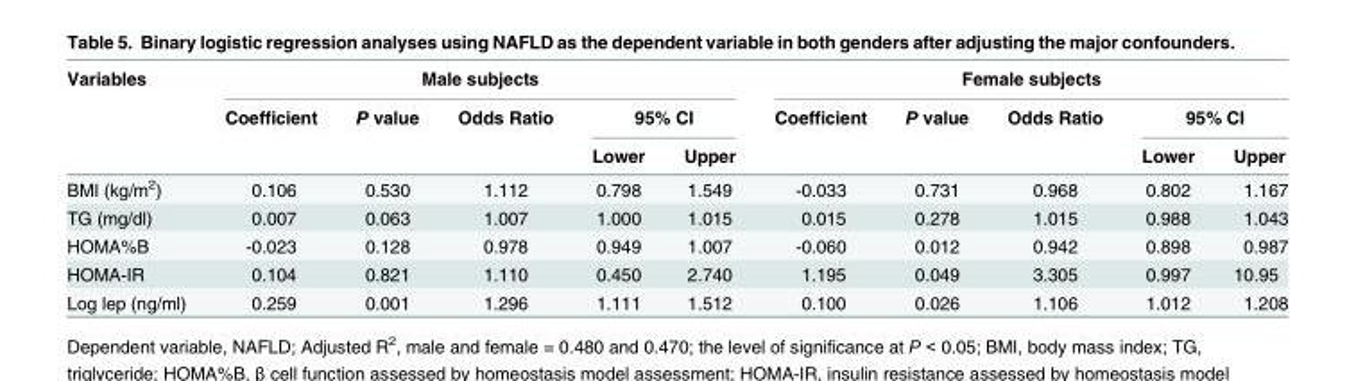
<table><thead><tr><td rowspan="3">Variables</td><td colspan="5">Male subjects</td><td colspan="5">Female subjects</td></tr><tr><td rowspan="2">Coefficient</td><td rowspan="2">P value</td><td rowspan="2">Odds Ratio</td><td colspan="2">95% CI</td><td rowspan="2">Coefficient</td><td rowspan="2">P value</td><td rowspan="2">Odds Ratio</td><td colspan="2">95% CI</td></tr><tr><td>Lower</td><td>Upper</td><td>Lower</td><td>Upper</td></tr></thead><tbody><tr><td>BMI (kg/m<sup>2</sup>)</td><td>0.106</td><td>0.530</td><td>1.112</td><td>0.798</td><td>1.549</td><td>-0.033</td><td>0.731</td><td>0.968</td><td>0.802</td><td>1.167</td></tr><tr><td>TG (mg/dl)</td><td>0.007</td><td>0.063</td><td>1.007</td><td>1.000</td><td>1.015</td><td>0.015</td><td>0.278</td><td>1.015</td><td>0.988</td><td>1.043</td></tr><tr><td>HOMA%B</td><td>-0.023</td><td>0.128</td><td>0.978</td><td>0.949</td><td>1.007</td><td>-0.060</td><td>0.012</td><td>0.942</td><td>0.898</td><td>0.987</td></tr><tr><td>HOMA-IR</td><td>0.104</td><td>0.821</td><td>1.110</td><td>0.450</td><td>2.740</td><td>1.195</td><td>0.049</td><td>3.305</td><td>0.997</td><td>10.95</td></tr><tr><td>Log lep (ng/ml)</td><td>0.259</td><td>0.001</td><td>1.296</td><td>1.111</td><td>1.512</td><td>0.100</td><td>0.026</td><td>1.106</td><td>1.012</td><td>1.208</td></tr></tbody></table>